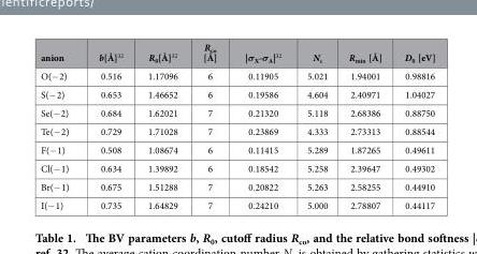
<table><thead><tr><td>anion</td><td>b[Å]<sup>32</sup></td><td>R<sub>0</sub>[Å]<sup>32</sup></td><td>R<sub>co</sub> [Å]</td><td>|σ<sub>X</sub>-σ<sub>A</sub>|<sup>32</sup></td><td>N<sub>c</sub></td><td>R<sub>min</sub> [Å]</td><td>D<sub>0</sub> [eV]</td></tr></thead><tbody><tr><td>O(− 2)</td><td>0.516</td><td>1.17096</td><td>6</td><td>0.11905</td><td>5.021</td><td>1.94001</td><td>0.98816</td></tr><tr><td>S(− 2)</td><td>0.653</td><td>1.46652</td><td>6</td><td>0.19586</td><td>4.604</td><td>2.40971</td><td>1.04027</td></tr><tr><td>Se(− 2)</td><td>0.684</td><td>1.62021</td><td>7</td><td>0.21320</td><td>5.118</td><td>2.68386</td><td>0.88750</td></tr><tr><td>Te(− 2)</td><td>0.729</td><td>1.71028</td><td>7</td><td>0.23869</td><td>4.333</td><td>2.73313</td><td>0.88544</td></tr><tr><td>F(− 1)</td><td>0.508</td><td>1.08674</td><td>6</td><td>0.11415</td><td>5.289</td><td>1.87265</td><td>0.49611</td></tr><tr><td>Cl(− 1)</td><td>0.634</td><td>1.39892</td><td>6</td><td>0.18542</td><td>5.258</td><td>2.39647</td><td>0.49302</td></tr><tr><td>Br(− 1)</td><td>0.675</td><td>1.51288</td><td>7</td><td>0.20822</td><td>5.263</td><td>2.58255</td><td>0.44910</td></tr><tr><td>I(− 1)</td><td>0.735</td><td>1.64829</td><td>7</td><td>0.24210</td><td>5.000</td><td>2.78807</td><td>0.44117</td></tr></tbody></table>